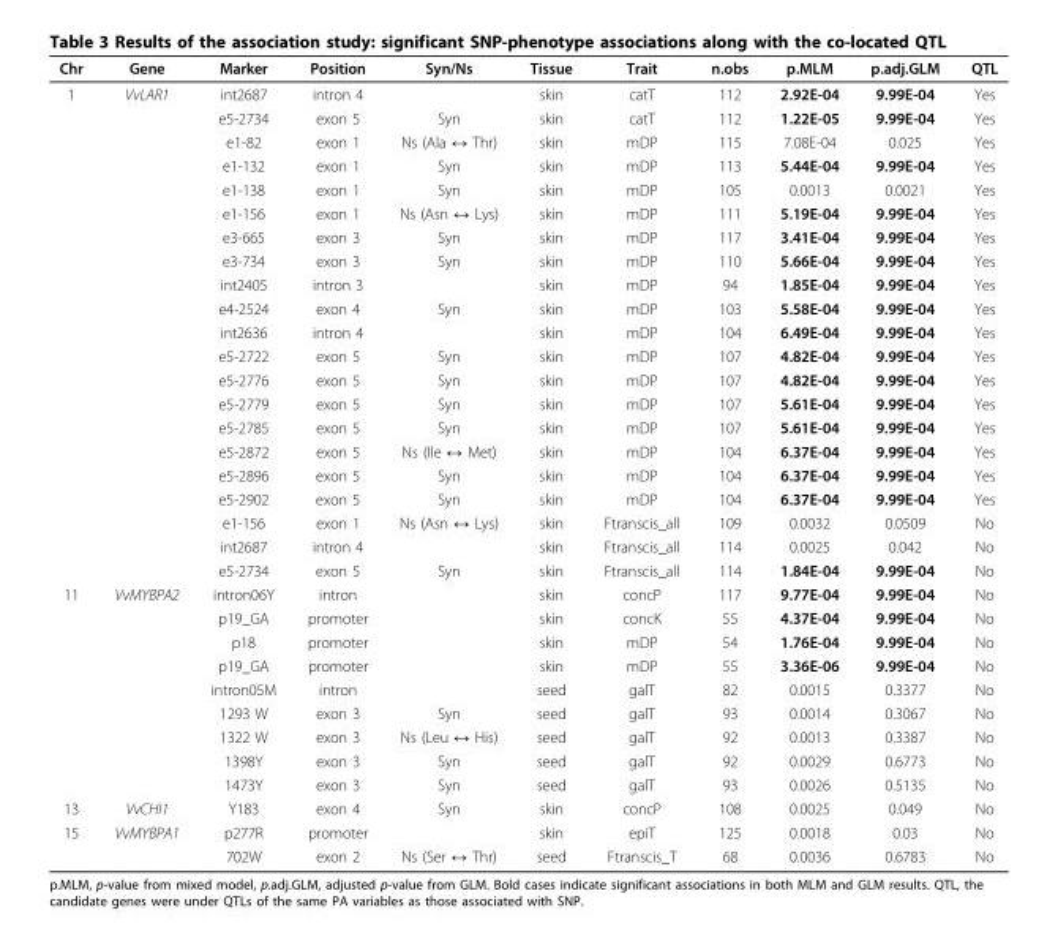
<table><thead><tr><td>Chr</td><td>Gene</td><td>Marker</td><td>Position</td><td>Syn/Ns</td><td>Tissue</td><td>Trait</td><td>n.obs</td><td>p.MLM</td><td>p.adj.GLM</td><td>QTL</td></tr></thead><tbody><tr><td rowspan="21">1</td><td>VvLAR1</td><td>int2687</td><td>intron 4</td><td></td><td>skin</td><td>catT</td><td>112</td><td>2.92E-04</td><td>9.99E-04</td><td>Yes</td></tr><tr><td></td><td>e5-2734</td><td>exon 5</td><td>Syn</td><td>skin</td><td>catT</td><td>112</td><td>1.22E-05</td><td>9.99E-04</td><td>Yes</td></tr><tr><td></td><td>e1-82</td><td>exon 1</td><td>Ns (Ala ↔ Thr)</td><td>skin</td><td>mDP</td><td>115</td><td>7.08E-04</td><td>0.025</td><td>Yes</td></tr><tr><td></td><td>e1-132</td><td>exon 1</td><td>Syn</td><td>skin</td><td>mDP</td><td>113</td><td>5.44E-04</td><td>9.99E-04</td><td>Yes</td></tr><tr><td></td><td>e1-138</td><td>exon 1</td><td>Syn</td><td>skin</td><td>mDP</td><td>105</td><td>0.0013</td><td>0.0021</td><td>Yes</td></tr><tr><td></td><td>e1-156</td><td>exon 1</td><td>Ns (Asn ↔ Lys)</td><td>skin</td><td>mDP</td><td>111</td><td>5.19E-04</td><td>9.99E-04</td><td>Yes</td></tr><tr><td></td><td>e3-665</td><td>exon 3</td><td>Syn</td><td>skin</td><td>mDP</td><td>117</td><td>3.41E-04</td><td>9.99E-04</td><td>Yes</td></tr><tr><td></td><td>e3-734</td><td>exon 3</td><td>Syn</td><td>skin</td><td>mDP</td><td>110</td><td>5.66E-04</td><td>9.99E-04</td><td>Yes</td></tr><tr><td></td><td>int2405</td><td>intron 3</td><td></td><td>skin</td><td>mDP</td><td>94</td><td>1.85E-04</td><td>9.99E-04</td><td>Yes</td></tr><tr><td></td><td>e4-2524</td><td>exon 4</td><td>Syn</td><td>skin</td><td>mDP</td><td>103</td><td>5.58E-04</td><td>9.99E-04</td><td>Yes</td></tr><tr><td></td><td>int2636</td><td>intron 4</td><td></td><td>skin</td><td>mDP</td><td>104</td><td>6.49E-04</td><td>9.99E-04</td><td>Yes</td></tr><tr><td></td><td>e5-2722</td><td>exon 5</td><td>Syn</td><td>skin</td><td>mDP</td><td>107</td><td>4.82E-04</td><td>9.99E-04</td><td>Yes</td></tr><tr><td></td><td>e5-2776</td><td>exon 5</td><td>Syn</td><td>skin</td><td>mDP</td><td>107</td><td>4.82E-04</td><td>9.99E-04</td><td>Yes</td></tr><tr><td></td><td>e5-2779</td><td>exon 5</td><td>Syn</td><td>skin</td><td>mDP</td><td>107</td><td>5.61E-04</td><td>9.99E-04</td><td>Yes</td></tr><tr><td></td><td>e5-2785</td><td>exon 5</td><td>Syn</td><td>skin</td><td>mDP</td><td>107</td><td>5.61E-04</td><td>9.99E-04</td><td>Yes</td></tr><tr><td></td><td>e5-2872</td><td>exon 5</td><td>Ns (Ile ↔ Met)</td><td>skin</td><td>mDP</td><td>104</td><td>6.37E-04</td><td>9.99E-04</td><td>Yes</td></tr><tr><td></td><td>e5-2896</td><td>exon 5</td><td>Syn</td><td>skin</td><td>mDP</td><td>104</td><td>6.37E-04</td><td>9.99E-04</td><td>Yes</td></tr><tr><td></td><td>e5-2902</td><td>exon 5</td><td>Syn</td><td>skin</td><td>mDP</td><td>104</td><td>6.37E-04</td><td>9.99E-04</td><td>Yes</td></tr><tr><td></td><td>e1-156</td><td>exon 1</td><td>Ns (Asn ↔ Lys)</td><td>skin</td><td>Ftranscis_all</td><td>109</td><td>0.0032</td><td>0.0509</td><td>No</td></tr><tr><td></td><td>int2687</td><td>intron 4</td><td></td><td>skin</td><td>Ftranscis_all</td><td>114</td><td>0.0025</td><td>0.042</td><td>No</td></tr><tr><td></td><td>e5-2734</td><td>exon 5</td><td>Syn</td><td>skin</td><td>Ftranscis_all</td><td>114</td><td>1.84E-04</td><td>9.99E-04</td><td>No</td></tr><tr><td rowspan="9">11</td><td>VvMYBPA2</td><td>intron06Y</td><td>intron</td><td></td><td>skin</td><td>concP</td><td>117</td><td>9.77E-04</td><td>9.99E-04</td><td>No</td></tr><tr><td></td><td>p19_GA</td><td>promoter</td><td></td><td>skin</td><td>concK</td><td>55</td><td>4.37E-04</td><td>9.99E-04</td><td>No</td></tr><tr><td></td><td>p18</td><td>promoter</td><td></td><td>skin</td><td>mDP</td><td>54</td><td>1.76E-04</td><td>9.99E-04</td><td>No</td></tr><tr><td></td><td>p19_GA</td><td>promoter</td><td></td><td>skin</td><td>mDP</td><td>55</td><td>3.36E-06</td><td>9.99E-04</td><td>No</td></tr><tr><td></td><td>intron05M</td><td>intron</td><td></td><td>seed</td><td>galT</td><td>82</td><td>0.0015</td><td>0.3377</td><td>No</td></tr><tr><td></td><td>1293 W</td><td>exon 3</td><td>Syn</td><td>seed</td><td>galT</td><td>93</td><td>0.0014</td><td>0.3067</td><td>No</td></tr><tr><td></td><td>1322 W</td><td>exon 3</td><td>Ns (Leu ↔ His)</td><td>seed</td><td>galT</td><td>92</td><td>0.0013</td><td>0.3387</td><td>No</td></tr><tr><td></td><td>1398Y</td><td>exon 3</td><td>Syn</td><td>seed</td><td>galT</td><td>92</td><td>0.0029</td><td>0.6773</td><td>No</td></tr><tr><td></td><td>1473Y</td><td>exon 3</td><td>Syn</td><td>seed</td><td>galT</td><td>93</td><td>0.0026</td><td>0.5135</td><td>No</td></tr><tr><td>13</td><td>VvCHI1</td><td>Y183</td><td>exon 4</td><td>Syn</td><td>skin</td><td>concP</td><td>108</td><td>0.0025</td><td>0.049</td><td>No</td></tr><tr><td rowspan="2">15</td><td>VvMYBPA1</td><td>p277R</td><td>promoter</td><td></td><td>skin</td><td>epiT</td><td>125</td><td>0.0018</td><td>0.03</td><td>No</td></tr><tr><td></td><td>702W</td><td>exon 2</td><td>Ns (Ser ↔ Thr)</td><td>seed</td><td>Ftranscis_T</td><td>68</td><td>0.0036</td><td>0.6783</td><td>No</td></tr></tbody></table>